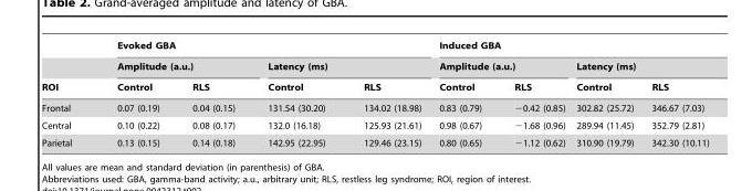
<table><thead><tr><td rowspan="3">ROI</td><td colspan="4">Evoked GBA</td><td colspan="4">Induced GBA</td></tr><tr><td colspan="2">Amplitude (a.u.)</td><td colspan="2">Latency (ms)</td><td colspan="2">Amplitude (a.u.)</td><td colspan="2">Latency (ms)</td></tr><tr><td>Control</td><td>RLS</td><td>Control</td><td>RLS</td><td>Control</td><td>RLS</td><td>Control</td><td>RLS</td></tr></thead><tbody><tr><td>Frontal</td><td>0.07 (0.19)</td><td>0.04 (0.15)</td><td>131.54 (30.20)</td><td>134.02 (18.98)</td><td>0.83 (0.79)</td><td>−0.42 (0.85)</td><td>302.82 (25.72)</td><td>346.67 (7.03)</td></tr><tr><td>Central</td><td>0.10 (0.22)</td><td>0.08 (0.17)</td><td>132.0 (16.18)</td><td>125.93 (21.61)</td><td>0.98 (0.67)</td><td>−1.68 (0.96)</td><td>289.94 (11.45)</td><td>352.79 (2.81)</td></tr><tr><td>Parietal</td><td>0.13 (0.15)</td><td>0.14 (0.18)</td><td>142.95 (22.95)</td><td>129.46 (23.15)</td><td>0.80 (0.65)</td><td>−1.12 (0.62)</td><td>310.90 (19.79)</td><td>342.30 (10.11)</td></tr></tbody></table>